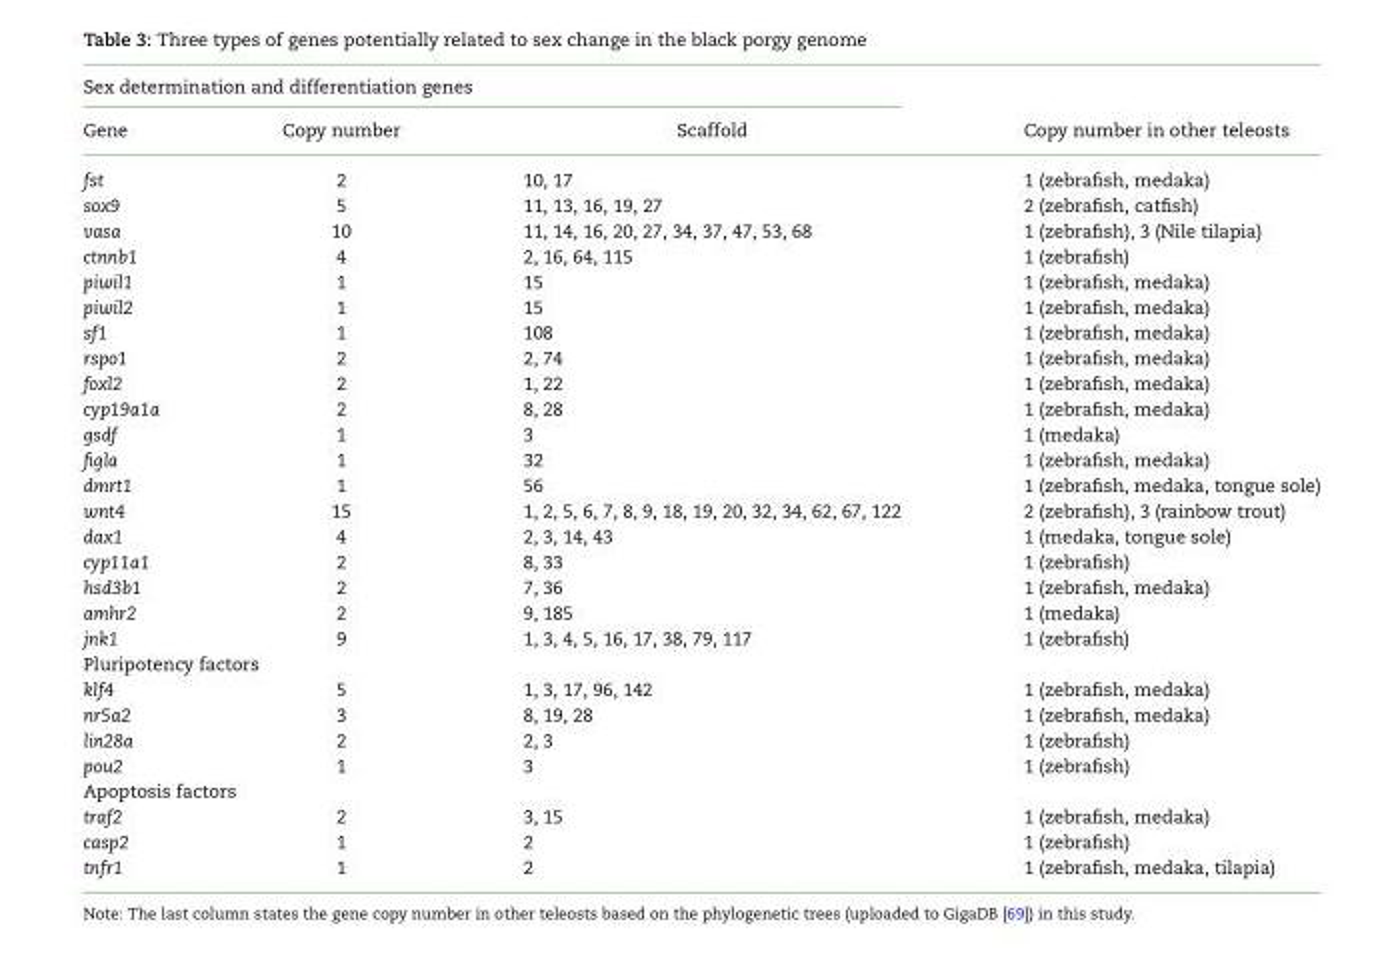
<table><thead><tr><td colspan="3">Sex determination and differentiation genes</td><td rowspan="2">Copy number in other teleosts</td></tr><tr><td>Gene</td><td>Copy number</td><td>Scaffold</td></tr></thead><tbody><tr><td>fst</td><td>2</td><td>10, 17</td><td>1 (zebrafish, medaka)</td></tr><tr><td>sox9</td><td>5</td><td>11, 13, 16, 19, 27</td><td>2 (zebrafish, catfish)</td></tr><tr><td>vasa</td><td>10</td><td>11, 14, 16, 20, 27, 34, 37, 47, 53, 68</td><td>1 (zebrafish), 3 (Nile tilapia)</td></tr><tr><td>ctnnb1</td><td>4</td><td>2, 16, 64, 115</td><td>1 (zebrafish)</td></tr><tr><td>piwil1</td><td>1</td><td>15</td><td>1 (zebrafish, medaka)</td></tr><tr><td>piwil2</td><td>1</td><td>15</td><td>1 (zebrafish, medaka)</td></tr><tr><td>sf1</td><td>1</td><td>108</td><td>1 (zebrafish, medaka)</td></tr><tr><td>rspo1</td><td>2</td><td>2, 74</td><td>1 (zebrafish, medaka)</td></tr><tr><td>foxl2</td><td>2</td><td>1, 22</td><td>1 (zebrafish, medaka)</td></tr><tr><td>cyp19a1a</td><td>2</td><td>8, 28</td><td>1 (zebrafish, medaka)</td></tr><tr><td>gsdf</td><td>1</td><td>3</td><td>1 (medaka)</td></tr><tr><td>figla</td><td>1</td><td>32</td><td>1 (zebrafish, medaka)</td></tr><tr><td>dmrt1</td><td>1</td><td>56</td><td>1 (zebrafish, medaka, tongue sole)</td></tr><tr><td>wnt4</td><td>15</td><td>1, 2, 5, 6, 7, 8, 9, 18, 19, 20, 32, 34, 62, 67, 122</td><td>2 (zebrafish), 3 (rainbow trout)</td></tr><tr><td>dax1</td><td>4</td><td>2, 3, 14, 43</td><td>1 (medaka, tongue sole)</td></tr><tr><td>cyp11a1</td><td>2</td><td>8, 33</td><td>1 (zebrafish)</td></tr><tr><td>hsd3b1</td><td>2</td><td>7, 36</td><td>1 (zebrafish, medaka)</td></tr><tr><td>amhr2</td><td>2</td><td>9, 185</td><td>1 (medaka)</td></tr><tr><td>jnk1</td><td>9</td><td>1, 3, 4, 5, 16, 17, 38, 79, 117</td><td>1 (zebrafish)</td></tr><tr><td colspan="4">Pluripotency factors</td></tr><tr><td>klf4</td><td>5</td><td>1, 3, 17, 96, 142</td><td>1 (zebrafish, medaka)</td></tr><tr><td>nr5a2</td><td>3</td><td>8, 19, 28</td><td>1 (zebrafish, medaka)</td></tr><tr><td>lin28a</td><td>2</td><td>2, 3</td><td>1 (zebrafish)</td></tr><tr><td>pou2</td><td>1</td><td>3</td><td>1 (zebrafish)</td></tr><tr><td colspan="4">Apoptosis factors</td></tr><tr><td>traf2</td><td>2</td><td>3, 15</td><td>1 (zebrafish, medaka)</td></tr><tr><td>casp2</td><td>1</td><td>2</td><td>1 (zebrafish)</td></tr><tr><td>tnfr1</td><td>1</td><td>2</td><td>1 (zebrafish, medaka, tilapia)</td></tr></tbody></table>